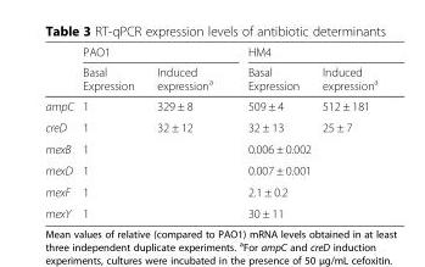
<table><thead><tr><td rowspan="2"></td><td colspan="2">PAO1</td><td colspan="2">HM4</td></tr><tr><td>Basal Expression</td><td>Induced expression<sup>a</sup></td><td>Basal Expression</td><td>Induced expression<sup>a</sup></td></tr></thead><tbody><tr><td>ampC</td><td>1</td><td>329 ± 8</td><td>509 ± 4</td><td>512 ± 181</td></tr><tr><td>creD</td><td>1</td><td>32 ± 12</td><td>32 ± 13</td><td>25 ± 7</td></tr><tr><td>mexB</td><td>1</td><td></td><td>0.006 ± 0.002</td><td></td></tr><tr><td>mexD</td><td>1</td><td></td><td>0.007 ± 0.001</td><td></td></tr><tr><td>mexF</td><td>1</td><td></td><td>2.1 ± 0.2</td><td></td></tr><tr><td>mexY</td><td>1</td><td></td><td>30 ± 11</td><td></td></tr></tbody></table>